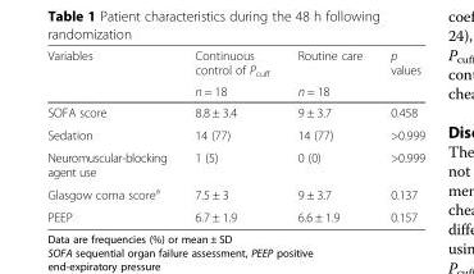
<table><thead><tr><td rowspan="2">Variables</td><td rowspan="2">Continuous control of P<sub>cuff</sub> n = 18</td><td rowspan="2">Routine care n = 18</td><td rowspan="2">p values</td></tr><tr></tr></thead><tbody><tr><td>SOFA score</td><td>8.8 ± 3.4</td><td>9 ± 3.7</td><td>0.458</td></tr><tr><td>Sedation</td><td>14 (77)</td><td>14 (77)</td><td>&gt;0.999</td></tr><tr><td>Neuromuscular-blocking agent use</td><td>1 (5)</td><td>0 (0)</td><td>&gt;0.999</td></tr><tr><td>Glasgow coma score<sup>a</sup></td><td>7.5 ± 3</td><td>9 ± 3.7</td><td>0.137</td></tr><tr><td>PEEP</td><td>6.7 ± 1.9</td><td>6.6 ± 1.9</td><td>0.157</td></tr></tbody></table>